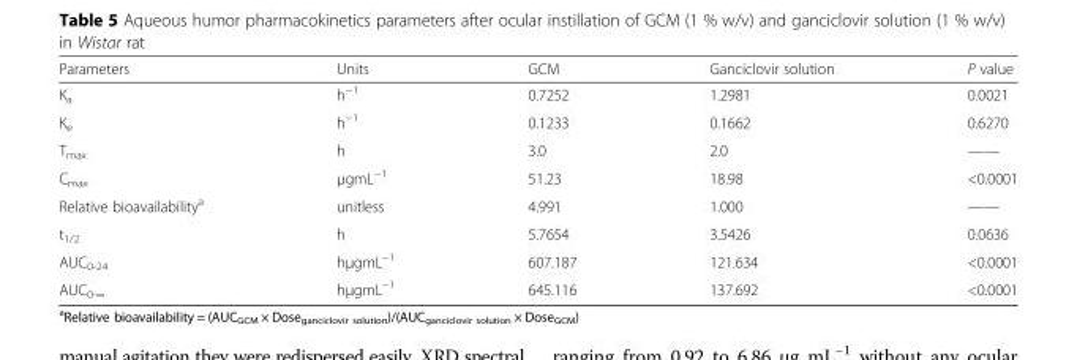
<table><thead><tr><td>Parameters</td><td>Units</td><td>GCM</td><td>Ganciclovir solution</td><td>P value</td></tr></thead><tbody><tr><td>K<sub>a</sub></td><td>h<sup>−1</sup></td><td>0.7252</td><td>1.2981</td><td>0.0021</td></tr><tr><td>K<sub>e</sub></td><td>h<sup>−1</sup></td><td>0.1233</td><td>0.1662</td><td>0.6270</td></tr><tr><td>T<sub>max</sub></td><td>h</td><td>3.0</td><td>2.0</td><td>——</td></tr><tr><td>C<sub>max</sub></td><td>μgmL<sup>−1</sup></td><td>51.23</td><td>18.98</td><td>&lt;0.0001</td></tr><tr><td>Relative bioavailability<sup>a</sup></td><td>unitless</td><td>4.991</td><td>1.000</td><td>——</td></tr><tr><td>t<sub>1/2</sub></td><td>h</td><td>5.7654</td><td>3.5426</td><td>0.0636</td></tr><tr><td>AUC<sub>0-24</sub></td><td>hμgmL<sup>−1</sup></td><td>607.187</td><td>121.634</td><td>&lt;0.0001</td></tr><tr><td>AUC<sub>0-∞</sub></td><td>hμgmL<sup>−1</sup></td><td>645.116</td><td>137.692</td><td>&lt;0.0001</td></tr></tbody></table>